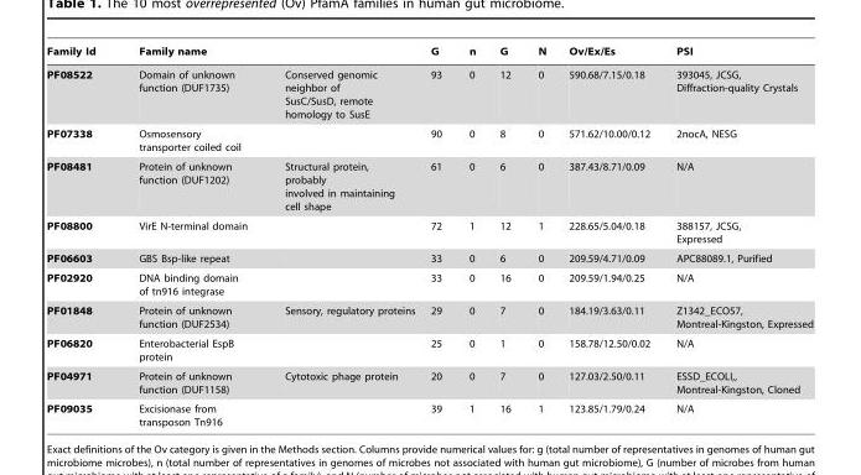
<table><thead><tr><td>Family Id</td><td>Family name</td><td></td><td>G</td><td>n</td><td>G</td><td>N</td><td>Ov/Ex/Es</td><td>PSI</td></tr></thead><tbody><tr><td>PF08522</td><td>Domain of unknown function (DUF1735)</td><td>Conserved genomic neighbor of SusC/SusD, remote homology to SusE</td><td>93</td><td>0</td><td>12</td><td>0</td><td>590.68/7.15/0.18</td><td>393045, JCSG, Diffraction-quality Crystals</td></tr><tr><td>PF07338</td><td>Osmosensory transporter coiled coil</td><td></td><td>90</td><td>0</td><td>8</td><td>0</td><td>571.62/10.00/0.12</td><td>2nocA, NESG</td></tr><tr><td>PF08481</td><td>Protein of unknown function (DUF1202)</td><td>Structural protein, probably involved in maintaining cell shape</td><td>61</td><td>0</td><td>6</td><td>0</td><td>387.43/8.71/0.09</td><td>N/A</td></tr><tr><td>PF08800</td><td>VirE N-terminal domain</td><td></td><td>72</td><td>1</td><td>12</td><td>1</td><td>228.65/5.04/0.18</td><td>388157, JCSG, Expressed</td></tr><tr><td>PF06603</td><td>GBS Bsp-like repeat</td><td></td><td>33</td><td>0</td><td>6</td><td>0</td><td>209.59/4.71/0.09</td><td>APC88089.1, Purified</td></tr><tr><td>PF02920</td><td>DNA binding domain of tn916 integrase</td><td></td><td>33</td><td>0</td><td>16</td><td>0</td><td>209.59/1.94/0.25</td><td>N/A</td></tr><tr><td>PF01848</td><td>Protein of unknown function (DUF2534)</td><td>Sensory, regulatory proteins</td><td>29</td><td>0</td><td>7</td><td>0</td><td>184.19/3.63/0.11</td><td>Z1342_ECO57, Montreal-Kingston, Expressed</td></tr><tr><td>PF06820</td><td>Enterobacterial EspB protein</td><td></td><td>25</td><td>0</td><td>1</td><td>0</td><td>158.78/12.50/0.02</td><td>N/A</td></tr><tr><td>PF04971</td><td>Protein of unknown function (DUF1158)</td><td>Cytotoxic phage protein</td><td>20</td><td>0</td><td>7</td><td>0</td><td>127.03/2.50/0.11</td><td>ESSD_ECOLI,, Montreal-Kingston, Cloned</td></tr><tr><td>PF09035</td><td>Excisionase from transposon Tn916</td><td></td><td>39</td><td>1</td><td>16</td><td>1</td><td>123.85/1.79/0.24</td><td>N/A</td></tr></tbody></table>